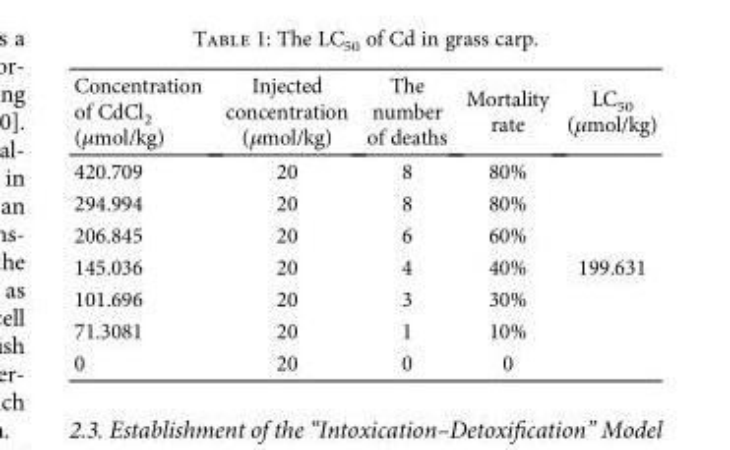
<table><thead><tr><td>Concentration of CdCl<sub>2</sub> (μmol/kg)</td><td>Injected concentration (μmol/kg)</td><td>The number of deaths</td><td>Mortality rate</td><td>LC<sub>50</sub> (μmol/kg)</td></tr></thead><tbody><tr><td>420.709</td><td>20</td><td>8</td><td>80%</td><td rowspan="7">199.631</td></tr><tr><td>294.994</td><td>20</td><td>8</td><td>80%</td></tr><tr><td>206.845</td><td>20</td><td>6</td><td>60%</td></tr><tr><td>145.036</td><td>20</td><td>4</td><td>40%</td></tr><tr><td>101.696</td><td>20</td><td>3</td><td>30%</td></tr><tr><td>71.3081</td><td>20</td><td>1</td><td>10%</td></tr><tr><td>0</td><td>20</td><td>0</td><td>0</td></tr></tbody></table>